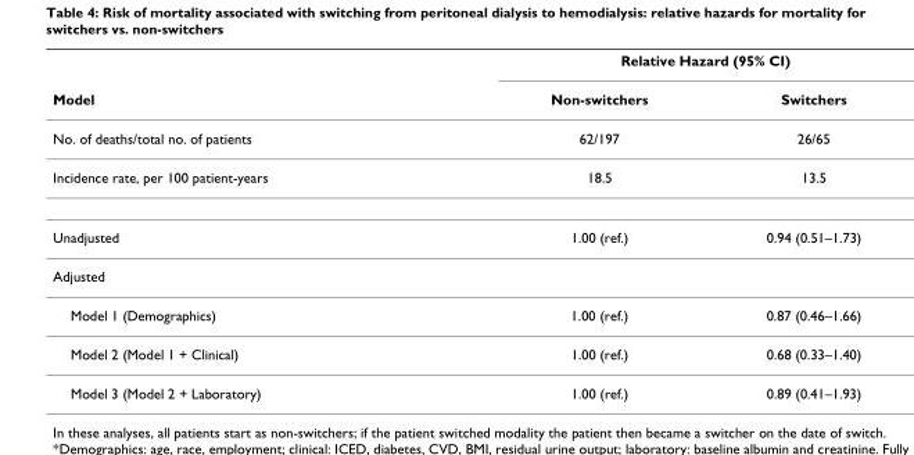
<table><thead><tr><td rowspan="2">Model</td><td colspan="2">Relative Hazard (95% CI)</td></tr><tr><td>Non-switchers</td><td>Switchers</td></tr></thead><tbody><tr><td>No. of deaths/total no. of patients</td><td>62/197</td><td>26/65</td></tr><tr><td>Incidence rate, per 100 patient-years</td><td>18.5</td><td>13.5</td></tr><tr><td>Unadjusted</td><td>1.00 (ref.)</td><td>0.94 (0.51–1.73)</td></tr><tr><td colspan="3">Adjusted</td></tr><tr><td>Model 1 (Demographics)</td><td>1.00 (ref.)</td><td>0.87 (0.46–1.66)</td></tr><tr><td>Model 2 (Model 1 + Clinical)</td><td>1.00 (ref.)</td><td>0.68 (0.33–1.40)</td></tr><tr><td>Model 3 (Model 2 + Laboratory)</td><td>1.00 (ref.)</td><td>0.89 (0.41–1.93)</td></tr></tbody></table>